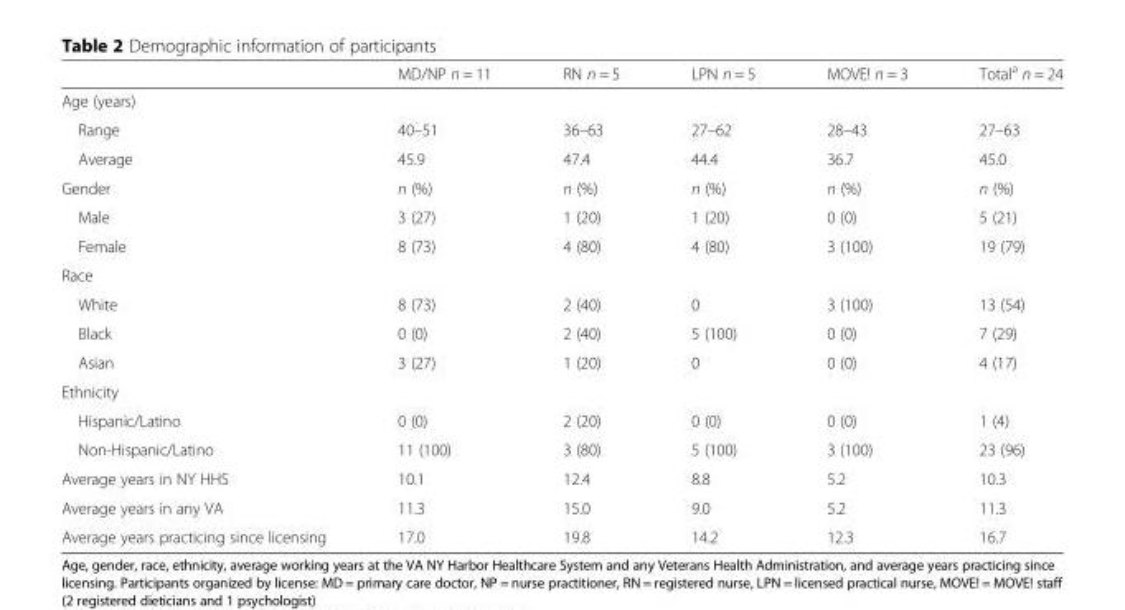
<table><thead><tr><td></td><td>MD/NP n = 11</td><td>RN n = 5</td><td>LPN n = 5</td><td>MOVE! n = 3</td><td>Total<sup>a</sup> n = 24</td></tr></thead><tbody><tr><td colspan="6">Age (years)</td></tr><tr><td>Range</td><td>40–51</td><td>36–63</td><td>27–62</td><td>28–43</td><td>27–63</td></tr><tr><td>Average</td><td>45.9</td><td>47.4</td><td>44.4</td><td>36.7</td><td>45.0</td></tr><tr><td>Gender</td><td>n (%)</td><td>n (%)</td><td>n (%)</td><td>n (%)</td><td>n (%)</td></tr><tr><td>Male</td><td>3 (27)</td><td>1 (20)</td><td>1 (20)</td><td>0 (0)</td><td>5 (21)</td></tr><tr><td>Female</td><td>8 (73)</td><td>4 (80)</td><td>4 (80)</td><td>3 (100)</td><td>19 (79)</td></tr><tr><td colspan="6">Race</td></tr><tr><td>White</td><td>8 (73)</td><td>2 (40)</td><td>0</td><td>3 (100)</td><td>13 (54)</td></tr><tr><td>Black</td><td>0 (0)</td><td>2 (40)</td><td>5 (100)</td><td>0 (0)</td><td>7 (29)</td></tr><tr><td>Asian</td><td>3 (27)</td><td>1 (20)</td><td>0</td><td>0 (0)</td><td>4 (17)</td></tr><tr><td colspan="6">Ethnicity</td></tr><tr><td>Hispanic/Latino</td><td>0 (0)</td><td>2 (20)</td><td>0 (0)</td><td>0 (0)</td><td>1 (4)</td></tr><tr><td>Non-Hispanic/Latino</td><td>11 (100)</td><td>3 (80)</td><td>5 (100)</td><td>3 (100)</td><td>23 (96)</td></tr><tr><td>Average years in NY HHS</td><td>10.1</td><td>12.4</td><td>8.8</td><td>5.2</td><td>10.3</td></tr><tr><td>Average years in any VA</td><td>11.3</td><td>15.0</td><td>9.0</td><td>5.2</td><td>11.3</td></tr><tr><td>Average years practicing since licensing</td><td>17.0</td><td>19.8</td><td>14.2</td><td>12.3</td><td>16.7</td></tr></tbody></table>